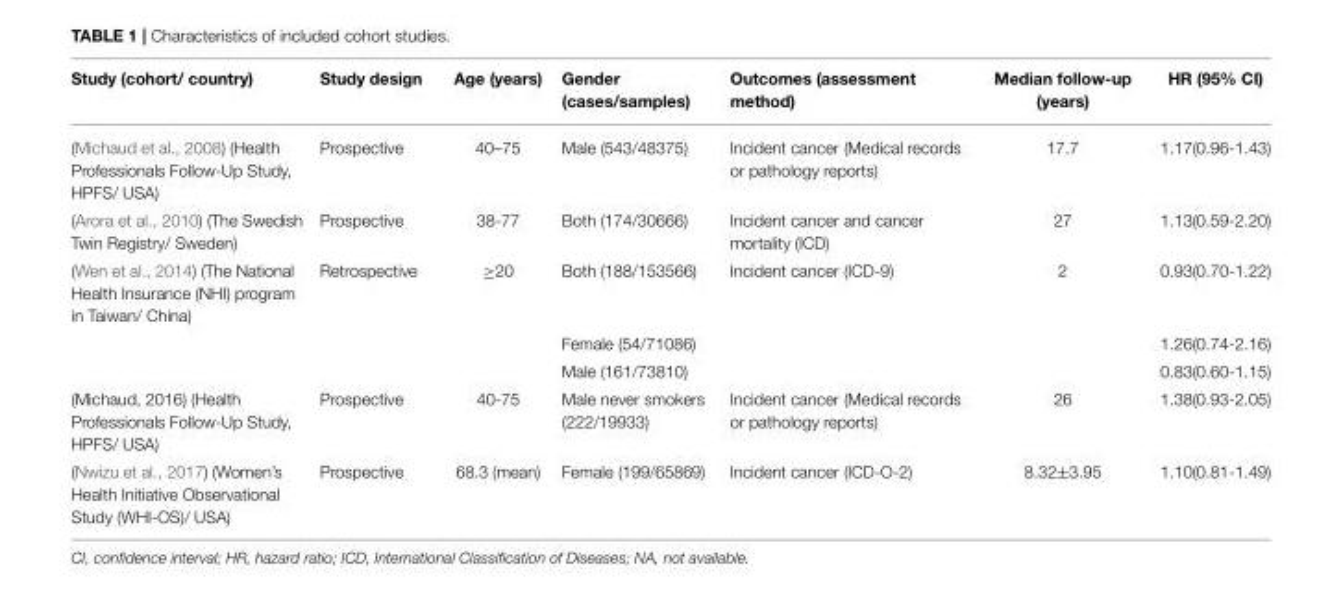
<table><thead><tr><td>Study (cohort/ country)</td><td>Study design</td><td>Age (years)</td><td>Gender (cases/samples)</td><td>Outcomes (assessment method)</td><td>Median follow-up (years)</td><td>HR (95% CI)</td></tr></thead><tbody><tr><td>(Michaud et al., 2008) (Health Professionals Follow-Up Study, HPFS/ USA)</td><td>Prospective</td><td>40–75</td><td>Male (543/48375)</td><td>Incident cancer (Medical records or pathology reports)</td><td>17.7</td><td>1.17(0.96-1.43)</td></tr><tr><td>(Arora et al., 2010) (The Swedish Twin Registry/ Sweden)</td><td>Prospective</td><td>38-77</td><td>Both (174/30666)</td><td>Incident cancer and cancer mortality (ICD)</td><td>27</td><td>1.13(0.59-2.20)</td></tr><tr><td rowspan="3">(Wen et al., 2014) (The National Health Insurance (NHI) program in Taiwan/ China)</td><td>Retrospective</td><td>≥20</td><td>Both (188/153566)</td><td>Incident cancer (ICD-9)</td><td>2</td><td>0.93(0.70-1.22)</td></tr><tr><td></td><td></td><td>Female (54/71086)</td><td></td><td></td><td>1.26(0.74-2.16)</td></tr><tr><td></td><td></td><td>Male (161/73810)</td><td></td><td></td><td>0.83(0.60-1.15)</td></tr><tr><td>(Michaud, 2016) (Health Professionals Follow-Up Study, HPFS/ USA)</td><td>Prospective</td><td>40-75</td><td>Male never smokers (222/19933)</td><td>Incident cancer (Medical records or pathology reports)</td><td>26</td><td>1.38(0.93-2.05)</td></tr><tr><td>(Nwizu et al., 2017) (Women’s Health Initiative Observational Study (WHI-OS)/ USA)</td><td>Prospective</td><td>68.3 (mean)</td><td>Female (199/65869)</td><td>Incident cancer (ICD-O-2)</td><td>8.32±3.95</td><td>1.10(0.81-1.49)</td></tr></tbody></table>